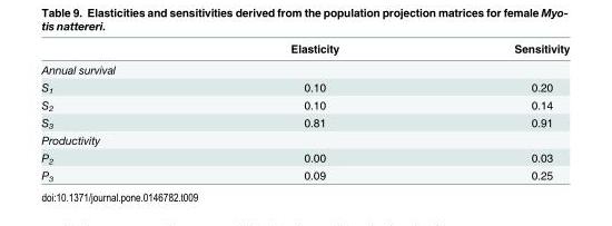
<table><thead><tr><td></td><td>Elasticity</td><td>Sensitivity</td></tr></thead><tbody><tr><td colspan="3">Annual survival</td></tr><tr><td>S<sub>1</sub></td><td>0.10</td><td>0.20</td></tr><tr><td>S<sub>2</sub></td><td>0.10</td><td>0.14</td></tr><tr><td>S<sub>3</sub></td><td>0.81</td><td>0.91</td></tr><tr><td colspan="3">Productivity</td></tr><tr><td>P<sub>2</sub></td><td>0.00</td><td>0.03</td></tr><tr><td>P<sub>3</sub></td><td>0.09</td><td>0.25</td></tr></tbody></table>